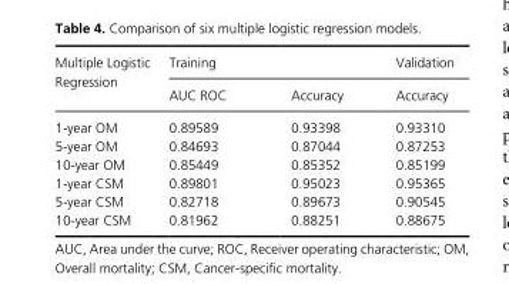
<table><thead><tr><td rowspan="2">Multiple Logistic Regression</td><td colspan="2">Training</td><td rowspan="2">Validation Accuracy</td></tr><tr><td>AUC ROC</td><td>Accuracy</td></tr></thead><tbody><tr><td>1- year OM</td><td>0.89589</td><td>0.93398</td><td>0.93310</td></tr><tr><td>5- year OM</td><td>0.84693</td><td>0.87044</td><td>0.87253</td></tr><tr><td>10- year OM</td><td>0.85449</td><td>0.85352</td><td>0.85199</td></tr><tr><td>1- year CSM</td><td>0.89801</td><td>0.95023</td><td>0.95365</td></tr><tr><td>5- year CSM</td><td>0.82718</td><td>0.89673</td><td>0.90545</td></tr><tr><td>10- year CSM</td><td>0.81962</td><td>0.88251</td><td>0.88675</td></tr></tbody></table>